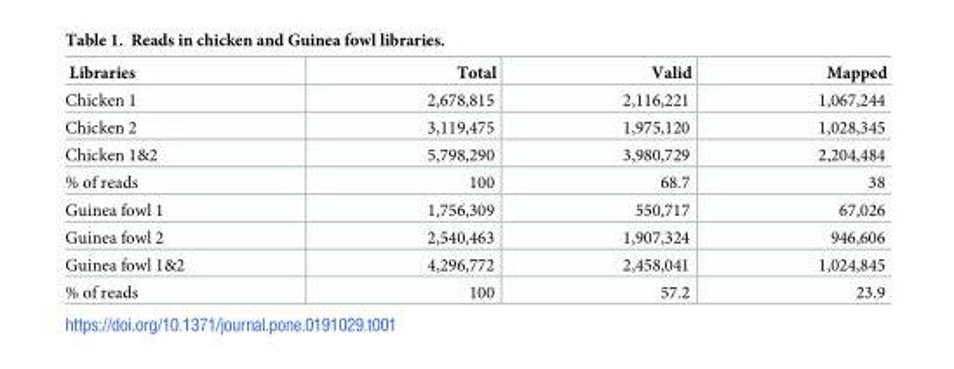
<table><thead><tr><td>Libraries</td><td>Total</td><td>Valid</td><td>Mapped</td></tr></thead><tbody><tr><td>Chicken 1</td><td>2,678,815</td><td>2,116,221</td><td>1,067,244</td></tr><tr><td>Chicken 2</td><td>3,119,475</td><td>1,975,120</td><td>1,028,345</td></tr><tr><td>Chicken 1&amp;2</td><td>5,798,290</td><td>3,980,729</td><td>2,204,484</td></tr><tr><td>% of reads</td><td>100</td><td>68.7</td><td>38</td></tr><tr><td>Guinea fowl 1</td><td>1,756,309</td><td>550,717</td><td>67,026</td></tr><tr><td>Guinea fowl 2</td><td>2,540,463</td><td>1,907,324</td><td>946,606</td></tr><tr><td>Guinea fowl 1&amp;2</td><td>4,296,772</td><td>2,458,041</td><td>1,024,845</td></tr><tr><td>% of reads</td><td>100</td><td>57.2</td><td>23.9</td></tr></tbody></table>